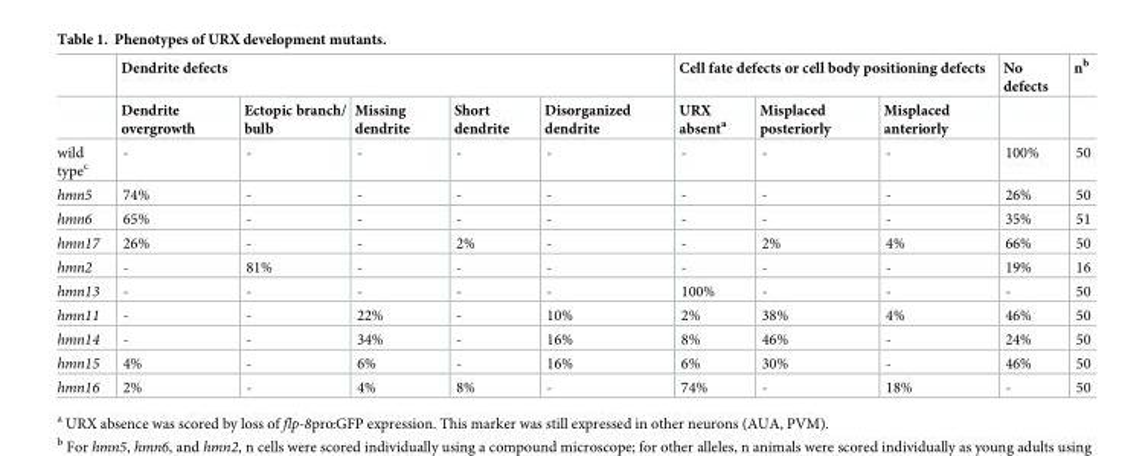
<table><thead><tr><td rowspan="2"></td><td colspan="5">Dendrite defects</td><td colspan="3">Cell fate defects or cell body positioning defects</td><td rowspan="2">No defects</td><td rowspan="2">n<sup>b</sup></td></tr><tr><td>Dendrite overgrowth</td><td>Ectopic branch/ bulb</td><td>Missing dendrite</td><td>Short dendrite</td><td>Disorganized dendrite</td><td>URX absent<sup>a</sup></td><td>Misplaced posteriorly</td><td>Misplaced anteriorly</td></tr></thead><tbody><tr><td>wild type<sup>c</sup></td><td>-</td><td>-</td><td>-</td><td>-</td><td>-</td><td>-</td><td>-</td><td>-</td><td>100%</td><td>50</td></tr><tr><td>hmn5</td><td>74%</td><td>-</td><td>-</td><td>-</td><td>-</td><td>-</td><td>-</td><td>-</td><td>26%</td><td>50</td></tr><tr><td>hmn6</td><td>65%</td><td>-</td><td>-</td><td>-</td><td>-</td><td>-</td><td>-</td><td>-</td><td>35%</td><td>51</td></tr><tr><td>hmn17</td><td>26%</td><td>-</td><td>-</td><td>2%</td><td>-</td><td>-</td><td>2%</td><td>4%</td><td>66%</td><td>50</td></tr><tr><td>hmn2</td><td>-</td><td>81%</td><td>-</td><td>-</td><td>-</td><td>-</td><td>-</td><td>-</td><td>19%</td><td>16</td></tr><tr><td>hmn13</td><td>-</td><td>-</td><td>-</td><td>-</td><td>-</td><td>100%</td><td>-</td><td>-</td><td>-</td><td>50</td></tr><tr><td>hmn11</td><td>-</td><td>-</td><td>22%</td><td>-</td><td>10%</td><td>2%</td><td>38%</td><td>4%</td><td>46%</td><td>50</td></tr><tr><td>hmn14</td><td>-</td><td>-</td><td>34%</td><td>-</td><td>16%</td><td>8%</td><td>46%</td><td>-</td><td>24%</td><td>50</td></tr><tr><td>hmn15</td><td>4%</td><td>-</td><td>6%</td><td>-</td><td>16%</td><td>6%</td><td>30%</td><td>-</td><td>46%</td><td>50</td></tr><tr><td>hmn16</td><td>2%</td><td>-</td><td>4%</td><td>8%</td><td>-</td><td>74%</td><td>-</td><td>18%</td><td>-</td><td>50</td></tr></tbody></table>